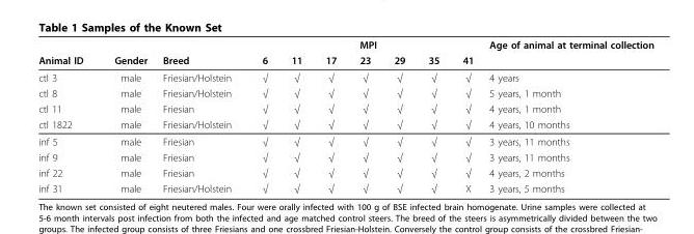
<table><thead><tr><td rowspan="2">Animal ID</td><td rowspan="2">Gender</td><td rowspan="2">Breed</td><td colspan="7">MPI</td><td rowspan="2">Age of animal at terminal collection</td></tr><tr><td>6</td><td>11</td><td>17</td><td>23</td><td>29</td><td>35</td><td>41</td></tr></thead><tbody><tr><td>ctl 3</td><td>male</td><td>Friesian/Holstein</td><td>√</td><td>√</td><td>√</td><td>√</td><td>√</td><td>√</td><td>√</td><td>4 years</td></tr><tr><td>ctl 8</td><td>male</td><td>Friesian/Holstein</td><td>√</td><td>√</td><td>√</td><td>√</td><td>√</td><td>√</td><td>√</td><td>5 years, 1 month</td></tr><tr><td>ctl 11</td><td>male</td><td>Friesian</td><td>√</td><td>√</td><td>√</td><td>√</td><td>√</td><td>√</td><td>√</td><td>4 years, 1 month</td></tr><tr><td>ctl 1822</td><td>male</td><td>Friesian/Holstein</td><td>√</td><td>√</td><td>√</td><td>√</td><td>√</td><td>√</td><td>√</td><td>4 years, 10 months</td></tr><tr><td>inf 5</td><td>male</td><td>Friesian</td><td>√</td><td>√</td><td>√</td><td>√</td><td>√</td><td>√</td><td>√</td><td>3 years, 11 months</td></tr><tr><td>inf 9</td><td>male</td><td>Friesian</td><td>√</td><td>√</td><td>√</td><td>√</td><td>√</td><td>√</td><td>√</td><td>3 years, 11 months</td></tr><tr><td>inf 22</td><td>male</td><td>Friesian</td><td>√</td><td>√</td><td>√</td><td>√</td><td>√</td><td>√</td><td>√</td><td>4 years, 2 months</td></tr><tr><td>inf 31</td><td>male</td><td>Friesian/Holstein</td><td>√</td><td>√</td><td>√</td><td>√</td><td>√</td><td>√</td><td>X</td><td>3 years, 5 months</td></tr></tbody></table>